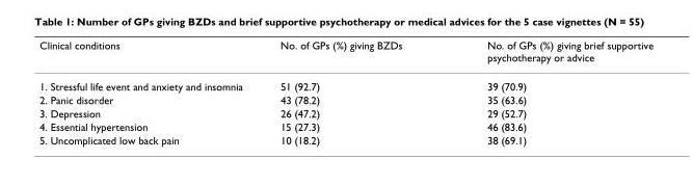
<table><thead><tr><td>Clinical conditions</td><td>No. of GPs (%) giving BZDs</td><td>No. of GPs (%) giving brief supportive psychotherapy or advice</td></tr></thead><tbody><tr><td>1. Stressful life event and anxiety and insomnia</td><td>51 (92.7)</td><td>39 (70.9)</td></tr><tr><td>2. Panic disorder</td><td>43 (78.2)</td><td>35 (63.6)</td></tr><tr><td>3. Depression</td><td>26 (47.2)</td><td>29 (52.7)</td></tr><tr><td>4. Essential hypertension</td><td>15 (27.3)</td><td>46 (83.6)</td></tr><tr><td>5. Uncomplicated low back pain</td><td>10 (18.2)</td><td>38 (69.1)</td></tr></tbody></table>